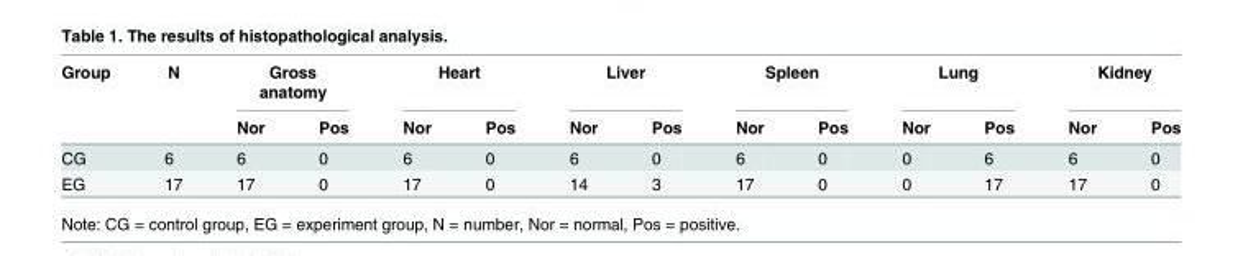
<table><thead><tr><td rowspan="2">Group</td><td rowspan="2">N</td><td colspan="2">Gross anatomy</td><td colspan="2">Heart</td><td colspan="2">Liver</td><td colspan="2">Spleen</td><td colspan="2">Lung</td><td colspan="2">Kidney</td></tr><tr><td>Nor</td><td>Pos</td><td>Nor</td><td>Pos</td><td>Nor</td><td>Pos</td><td>Nor</td><td>Pos</td><td>Nor</td><td>Pos</td><td>Nor</td><td>Pos</td></tr></thead><tbody><tr><td>CG</td><td>6</td><td>6</td><td>0</td><td>6</td><td>0</td><td>6</td><td>0</td><td>6</td><td>0</td><td>0</td><td>6</td><td>6</td><td>0</td></tr><tr><td>EG</td><td>17</td><td>17</td><td>0</td><td>17</td><td>0</td><td>14</td><td>3</td><td>17</td><td>0</td><td>0</td><td>17</td><td>17</td><td>0</td></tr></tbody></table>